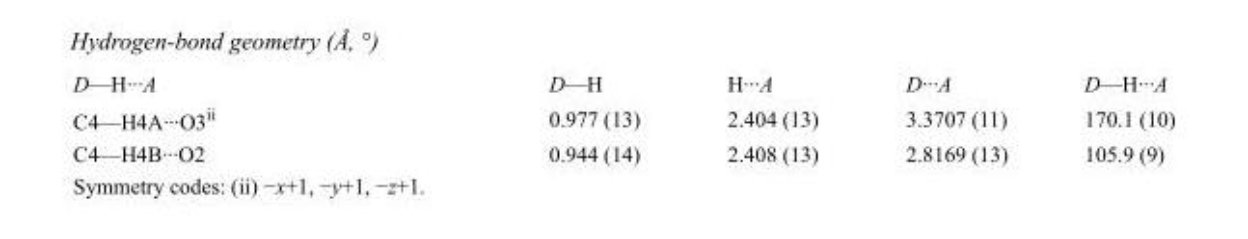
<table><tbody><tr><td>D—H···A</td><td>D—H</td><td>H···A</td><td>D···A</td><td>D—H···A</td></tr><tr><td>C4—H4A···O3<sup>ii</sup></td><td>0.977 (13)</td><td>2.404 (13)</td><td>3.3707 (11)</td><td>170.1 (10)</td></tr><tr><td>C4—H4B···O2</td><td>0.944 (14)</td><td>2.408 (13)</td><td>2.8169 (13)</td><td>105.9 (9)</td></tr></tbody></table>